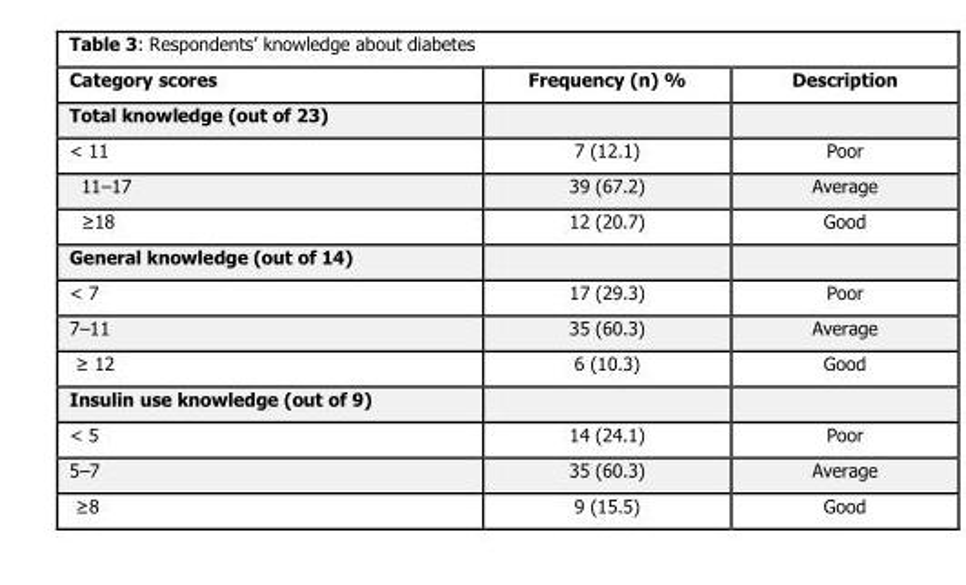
<table><thead><tr><td>Category scores</td><td>Frequency (n) %</td><td>Description</td></tr></thead><tbody><tr><td colspan="3">Total knowledge (out of 23)</td></tr><tr><td>&lt; 11</td><td>7 (12.1)</td><td>Poor</td></tr><tr><td>11–17</td><td>39 (67.2)</td><td>Average</td></tr><tr><td>≥18</td><td>12 (20.7)</td><td>Good</td></tr><tr><td colspan="3">General knowledge (out of 14)</td></tr><tr><td>&lt; 7</td><td>17 (29.3)</td><td>Poor</td></tr><tr><td>7–11</td><td>35 (60.3)</td><td>Average</td></tr><tr><td>≥ 12</td><td>6 (10.3)</td><td>Good</td></tr><tr><td colspan="3">Insulin use knowledge (out of 9)</td></tr><tr><td>&lt; 5</td><td>14 (24.1)</td><td>Poor</td></tr><tr><td>5–7</td><td>35 (60.3)</td><td>Average</td></tr><tr><td>≥8</td><td>9 (15.5)</td><td>Good</td></tr></tbody></table>